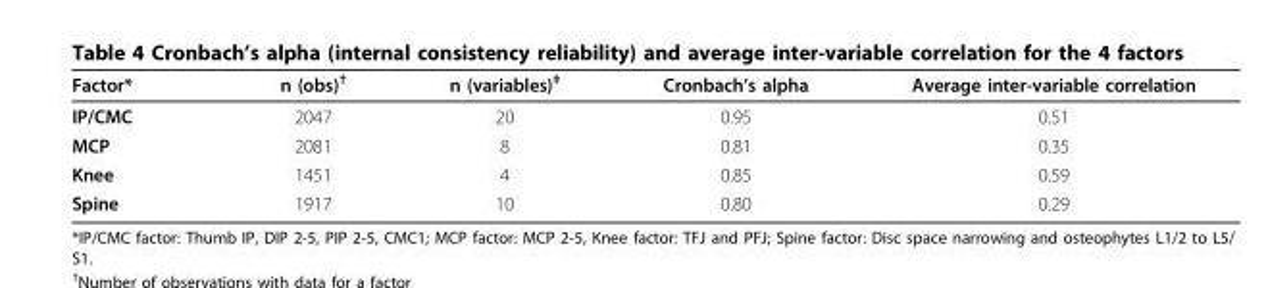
<table><thead><tr><td>Factor*</td><td>n (obs)<sup>†</sup></td><td>n (variables)<sup>‡</sup></td><td>Cronbach’s alpha</td><td>Average inter-variable correlation</td></tr></thead><tbody><tr><td>IP/CMC</td><td>2047</td><td>20</td><td>0.95</td><td>0.51</td></tr><tr><td>MCP</td><td>2081</td><td>8</td><td>0.81</td><td>0.35</td></tr><tr><td>Knee</td><td>1451</td><td>4</td><td>0.85</td><td>0.59</td></tr><tr><td>Spine</td><td>1917</td><td>10</td><td>0.80</td><td>0.29</td></tr></tbody></table>